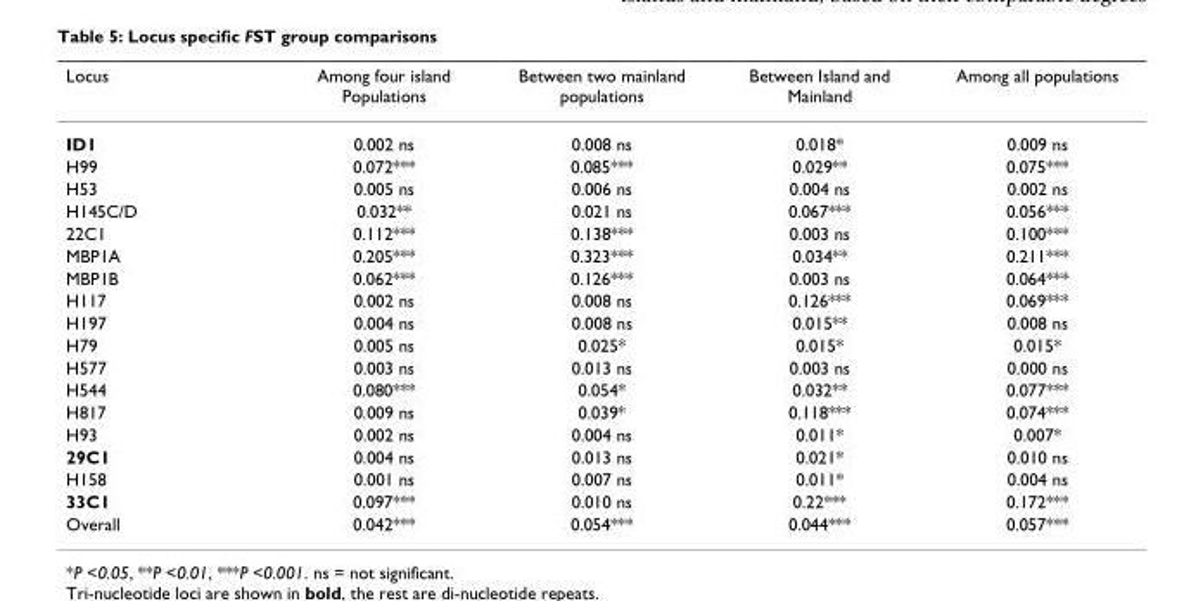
<table><thead><tr><td>Locus</td><td>Among four island Populations</td><td>Between two mainland populations</td><td>Between Island and Mainland</td><td>Among all populations</td></tr></thead><tbody><tr><td>ID1</td><td>0.002 ns</td><td>0.008 ns</td><td>0.018*</td><td>0.009 ns</td></tr><tr><td>H99</td><td>0.072***</td><td>0.085***</td><td>0.029**</td><td>0.075***</td></tr><tr><td>H53</td><td>0.005 ns</td><td>0.006 ns</td><td>0.004 ns</td><td>0.002 ns</td></tr><tr><td>H145C/D</td><td>0.032**</td><td>0.021 ns</td><td>0.067***</td><td>0.056***</td></tr><tr><td>22C1</td><td>0.112***</td><td>0.138***</td><td>0.003 ns</td><td>0.100***</td></tr><tr><td>MBP1A</td><td>0.205***</td><td>0.323***</td><td>0.034**</td><td>0.211***</td></tr><tr><td>MBP1B</td><td>0.062***</td><td>0.126***</td><td>0.003 ns</td><td>0.064***</td></tr><tr><td>H117</td><td>0.002 ns</td><td>0.008 ns</td><td>0.126***</td><td>0.069***</td></tr><tr><td>H197</td><td>0.004 ns</td><td>0.008 ns</td><td>0.015**</td><td>0.008 ns</td></tr><tr><td>H79</td><td>0.005 ns</td><td>0.025*</td><td>0.015*</td><td>0.015*</td></tr><tr><td>H577</td><td>0.003 ns</td><td>0.013 ns</td><td>0.003 ns</td><td>0.000 ns</td></tr><tr><td>H544</td><td>0.080***</td><td>0.054*</td><td>0.032**</td><td>0.077***</td></tr><tr><td>H817</td><td>0.009 ns</td><td>0.039*</td><td>0.118***</td><td>0.074***</td></tr><tr><td>H93</td><td>0.002 ns</td><td>0.004 ns</td><td>0.011*</td><td>0.007*</td></tr><tr><td>29C1</td><td>0.004 ns</td><td>0.013 ns</td><td>0.021*</td><td>0.010 ns</td></tr><tr><td>H158</td><td>0.001 ns</td><td>0.007 ns</td><td>0.011*</td><td>0.004 ns</td></tr><tr><td>33C1</td><td>0.097***</td><td>0.010 ns</td><td>0.22***</td><td>0.172***</td></tr><tr><td>Overall</td><td>0.042***</td><td>0.054***</td><td>0.044***</td><td>0.057***</td></tr></tbody></table>